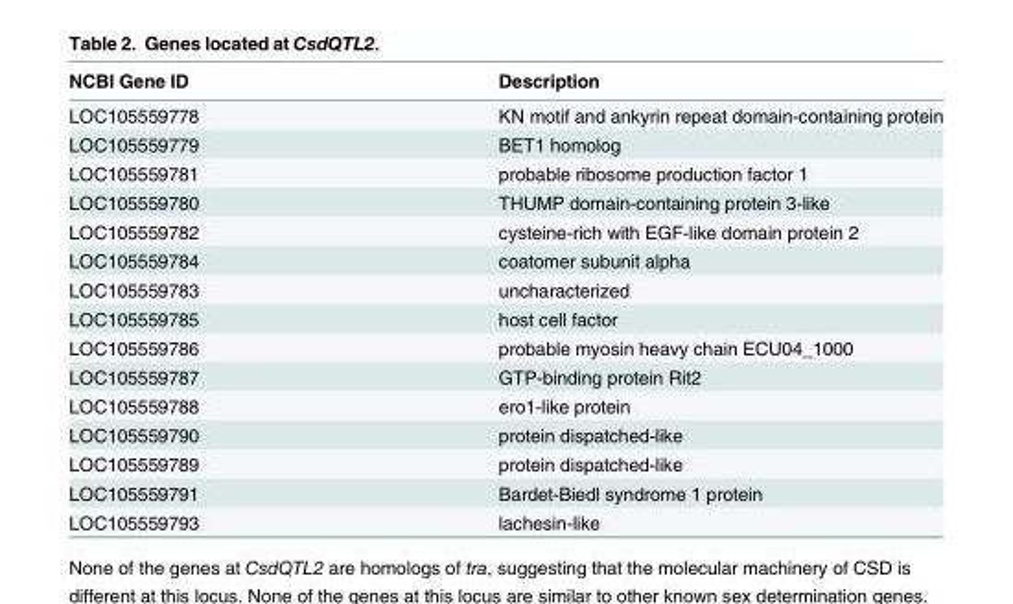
<table><thead><tr><td>NCBI Gene ID</td><td>Description</td></tr></thead><tbody><tr><td>LOC105559778</td><td>KN motif and ankyrin repeat domain-containing protein</td></tr><tr><td>LOC105559779</td><td>BET1 homolog</td></tr><tr><td>LOC105559781</td><td>probable ribosome production factor 1</td></tr><tr><td>LOC105559780</td><td>THUMP domain-containing protein 3-like</td></tr><tr><td>LOC105559782</td><td>cysteine-rich with EGF-like domain protein 2</td></tr><tr><td>LOC105559784</td><td>coatomer subunit alpha</td></tr><tr><td>LOC105559783</td><td>uncharacterized</td></tr><tr><td>LOC105559785</td><td>host cell factor</td></tr><tr><td>LOC105559786</td><td>probable myosin heavy chain ECU04_1000</td></tr><tr><td>LOC105559787</td><td>GTP-binding protein Rit2</td></tr><tr><td>LOC105559788</td><td>ero1-like protein</td></tr><tr><td>LOC105559790</td><td>protein dispatched-like</td></tr><tr><td>LOC105559789</td><td>protein dispatched-like</td></tr><tr><td>LOC105559791</td><td>Bardet-Biedl syndrome 1 protein</td></tr><tr><td>LOC105559793</td><td>lachesin-like</td></tr></tbody></table>